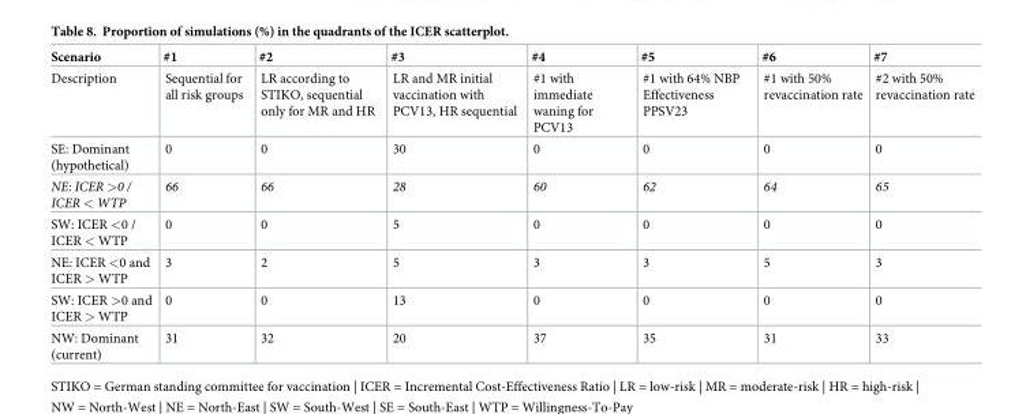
<table><thead><tr><td>Scenario</td><td>#1</td><td>#2</td><td>#3</td><td>#4</td><td>#5</td><td>#6</td><td>#7</td></tr></thead><tbody><tr><td>Description</td><td>Sequential for all risk groups</td><td>LR according to STIKO, sequential only for MR and HR</td><td>LR and MR initial vaccination with PCV13, HR sequential</td><td>#1 with immediate waning for PCV13</td><td>#1 with 64% NBP Effectiveness PPSV23</td><td>#1 with 50% revaccination rate</td><td>#2 with 50% revaccination rate</td></tr><tr><td>SE: Dominant (hypothetical)</td><td>0</td><td>0</td><td>30</td><td>0</td><td>0</td><td>0</td><td>0</td></tr><tr><td>NE: ICER &gt;0 / ICER &lt; WTP</td><td>66</td><td>66</td><td>28</td><td>60</td><td>62</td><td>64</td><td>65</td></tr><tr><td>SW: ICER &lt;0 / ICER &lt; WTP</td><td>0</td><td>0</td><td>5</td><td>0</td><td>0</td><td>0</td><td>0</td></tr><tr><td>NE: ICER &lt;0 and ICER &gt; WTP</td><td>3</td><td>2</td><td>5</td><td>3</td><td>3</td><td>5</td><td>3</td></tr><tr><td>SW: ICER &gt;0 and ICER &gt; WTP</td><td>0</td><td>0</td><td>13</td><td>0</td><td>0</td><td>0</td><td>0</td></tr><tr><td>NW: Dominant (current)</td><td>31</td><td>32</td><td>20</td><td>37</td><td>35</td><td>31</td><td>33</td></tr></tbody></table>